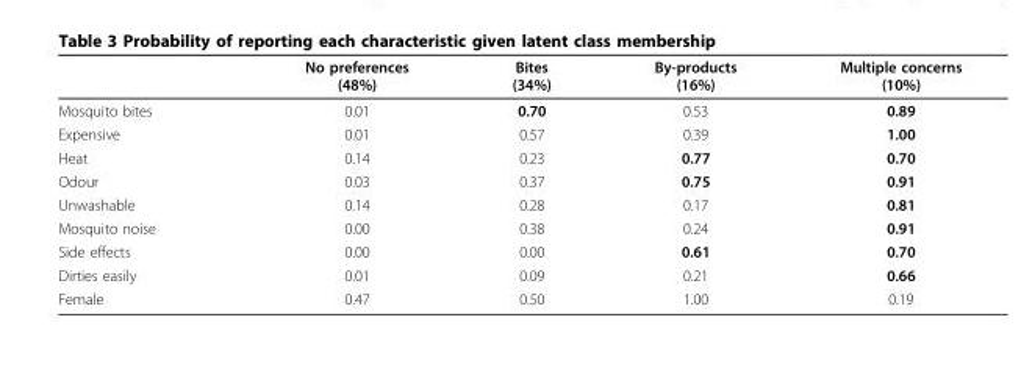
<table><thead><tr><td></td><td>No preferences (48%)</td><td>Bites (34%)</td><td>By-products (16%)</td><td>Multiple concerns (10%)</td></tr></thead><tbody><tr><td>Mosquito bites</td><td>0.01</td><td>0.70</td><td>0.53</td><td>0.89</td></tr><tr><td>Expensive</td><td>0.01</td><td>0.57</td><td>0.39</td><td>1.00</td></tr><tr><td>Heat</td><td>0.14</td><td>0.23</td><td>0.77</td><td>0.70</td></tr><tr><td>Odour</td><td>0.03</td><td>0.37</td><td>0.75</td><td>0.91</td></tr><tr><td>Unwashable</td><td>0.14</td><td>0.28</td><td>0.17</td><td>0.81</td></tr><tr><td>Mosquito noise</td><td>0.00</td><td>0.38</td><td>0.24</td><td>0.91</td></tr><tr><td>Side effects</td><td>0.00</td><td>0.00</td><td>0.61</td><td>0.70</td></tr><tr><td>Dirties easily</td><td>0.01</td><td>0.09</td><td>0.21</td><td>0.66</td></tr><tr><td>Female</td><td>0.47</td><td>0.50</td><td>1.00</td><td>0.19</td></tr></tbody></table>